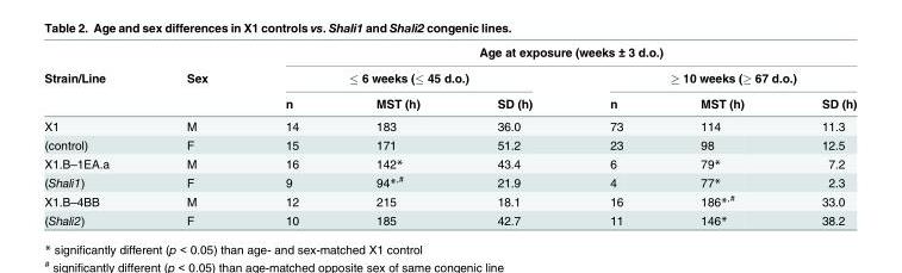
<table><thead><tr><td rowspan="3">Strain/Line</td><td rowspan="3">Sex</td><td colspan="6">Age at exposure (weeks ± 3 d.o.)</td></tr><tr><td colspan="3">≤ 6 weeks (≤ 45 d.o.)</td><td colspan="3">≥ 10 weeks (≥ 67 d.o.)</td></tr><tr><td>n</td><td>MST (h)</td><td>SD (h)</td><td>n</td><td>MST (h)</td><td>SD (h)</td></tr></thead><tbody><tr><td>X1</td><td>M</td><td>14</td><td>183</td><td>36.0</td><td>73</td><td>114</td><td>11.3</td></tr><tr><td>(control)</td><td>F</td><td>15</td><td>171</td><td>51.2</td><td>23</td><td>98</td><td>12.5</td></tr><tr><td>X1.B–1EA.a</td><td>M</td><td>16</td><td>142*</td><td>43.4</td><td>6</td><td>79*</td><td>7.2</td></tr><tr><td>(Shali1)</td><td>F</td><td>9</td><td>94*<sup>,#</sup></td><td>21.9</td><td>4</td><td>77*</td><td>2.3</td></tr><tr><td>X1.B–4BB</td><td>M</td><td>12</td><td>215</td><td>18.1</td><td>16</td><td>186*<sup>,#</sup></td><td>33.0</td></tr><tr><td>(Shali2)</td><td>F</td><td>10</td><td>185</td><td>42.7</td><td>11</td><td>146*</td><td>38.2</td></tr></tbody></table>